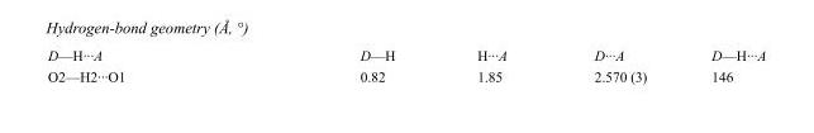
<table><tbody><tr><td>D—H···A</td><td>D—H</td><td>H···A</td><td>D···A</td><td>D—H···A</td></tr><tr><td>O2—H2···O1</td><td>0.82</td><td>1.85</td><td>2.570 (3)</td><td>146</td></tr></tbody></table>